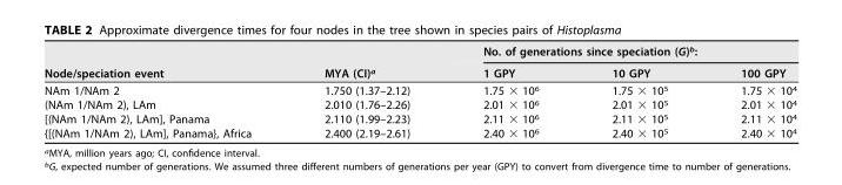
<table><thead><tr><td rowspan="2">Node/speciation event</td><td rowspan="2">MYA (CI)<sup>a</sup></td><td colspan="3">No. of generations since speciation (G)<sup>b</sup>:</td></tr><tr><td>1 GPY</td><td>10 GPY</td><td>100 GPY</td></tr></thead><tbody><tr><td>NAm 1/NAm 2</td><td>1.750 (1.37–2.12)</td><td>1.75 × 10<sup>6</sup></td><td>1.75 × 10<sup>5</sup></td><td>1.75 × 10<sup>4</sup></td></tr><tr><td>(NAm 1/NAm 2), LAm</td><td>2.010 (1.76–2.26)</td><td>2.01 × 10<sup>6</sup></td><td>2.01 × 10<sup>5</sup></td><td>2.01 × 10<sup>4</sup></td></tr><tr><td>[(NAm 1/NAm 2), LAm], Panama</td><td>2.110 (1.99–2.23)</td><td>2.11 × 10<sup>6</sup></td><td>2.11 × 10<sup>5</sup></td><td>2.11 × 10<sup>4</sup></td></tr><tr><td>{[(NAm 1/NAm 2), LAm], Panama}, Africa</td><td>2.400 (2.19–2.61)</td><td>2.40 × 10<sup>6</sup></td><td>2.40 × 10<sup>5</sup></td><td>2.40 × 10<sup>4</sup></td></tr></tbody></table>